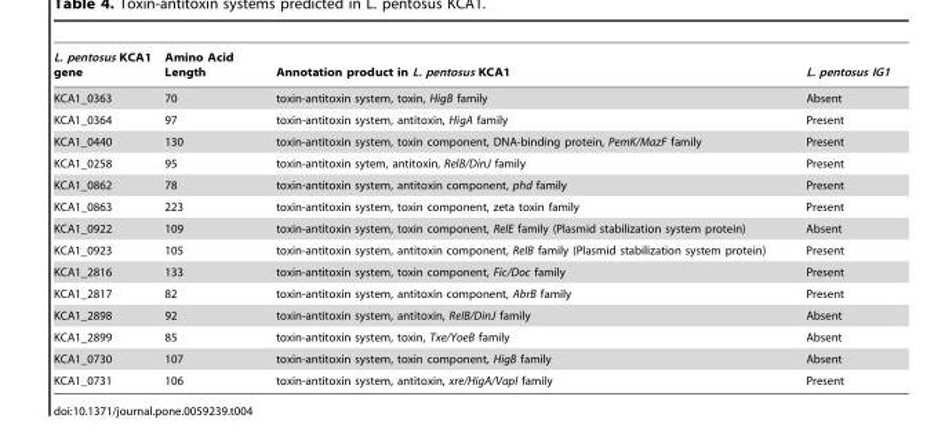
<table><thead><tr><td>L. pentosus KCA1 gene</td><td>Amino Acid Length</td><td>Annotation product in L. pentosus KCA1</td><td>L. pentosus IG1</td></tr></thead><tbody><tr><td>KCA1_0363</td><td>70</td><td>toxin-antitoxin system, toxin, HigB family</td><td>Absent</td></tr><tr><td>KCA1_0364</td><td>97</td><td>toxin-antitoxin system, antitoxin, HigA family</td><td>Present</td></tr><tr><td>KCA1_0440</td><td>130</td><td>toxin-antitoxin system, toxin component, DNA-binding protein, PemK/MazF family</td><td>Present</td></tr><tr><td>KCA1_0258</td><td>95</td><td>toxin-antitoxin sytem, antitoxin, RelB/DinJ family</td><td>Present</td></tr><tr><td>KCA1_0862</td><td>78</td><td>toxin-antitoxin system, antitoxin component, phd family</td><td>Present</td></tr><tr><td>KCA1_0863</td><td>223</td><td>toxin-antitoxin system, toxin component, zeta toxin family</td><td>Present</td></tr><tr><td>KCA1_0922</td><td>109</td><td>toxin-antitoxin system, toxin component, RelE family (Plasmid stabilization system protein)</td><td>Absent</td></tr><tr><td>KCA1_0923</td><td>105</td><td>toxin-antitoxin system, antitoxin component, RelB family (Plasmid stabilization system protein)</td><td>Present</td></tr><tr><td>KCA1_2816</td><td>133</td><td>toxin-antitoxin system, toxin component, Fic/Doc family</td><td>Present</td></tr><tr><td>KCA1_2817</td><td>82</td><td>toxin-antitoxin system, antitoxin component, AbrB family</td><td>Present</td></tr><tr><td>KCA1_2898</td><td>92</td><td>toxin-antitoxin system, antitoxin, RelB/DinJ family</td><td>Absent</td></tr><tr><td>KCA1_2899</td><td>85</td><td>toxin-antitoxin system, toxin, Txe/YoeB family</td><td>Absent</td></tr><tr><td>KCA1_0730</td><td>107</td><td>toxin-antitoxin system, toxin component, HigB family</td><td>Absent</td></tr><tr><td>KCA1_0731</td><td>106</td><td>toxin-antitoxin system, antitoxin, xre/HigA/VapI family</td><td>Present</td></tr></tbody></table>